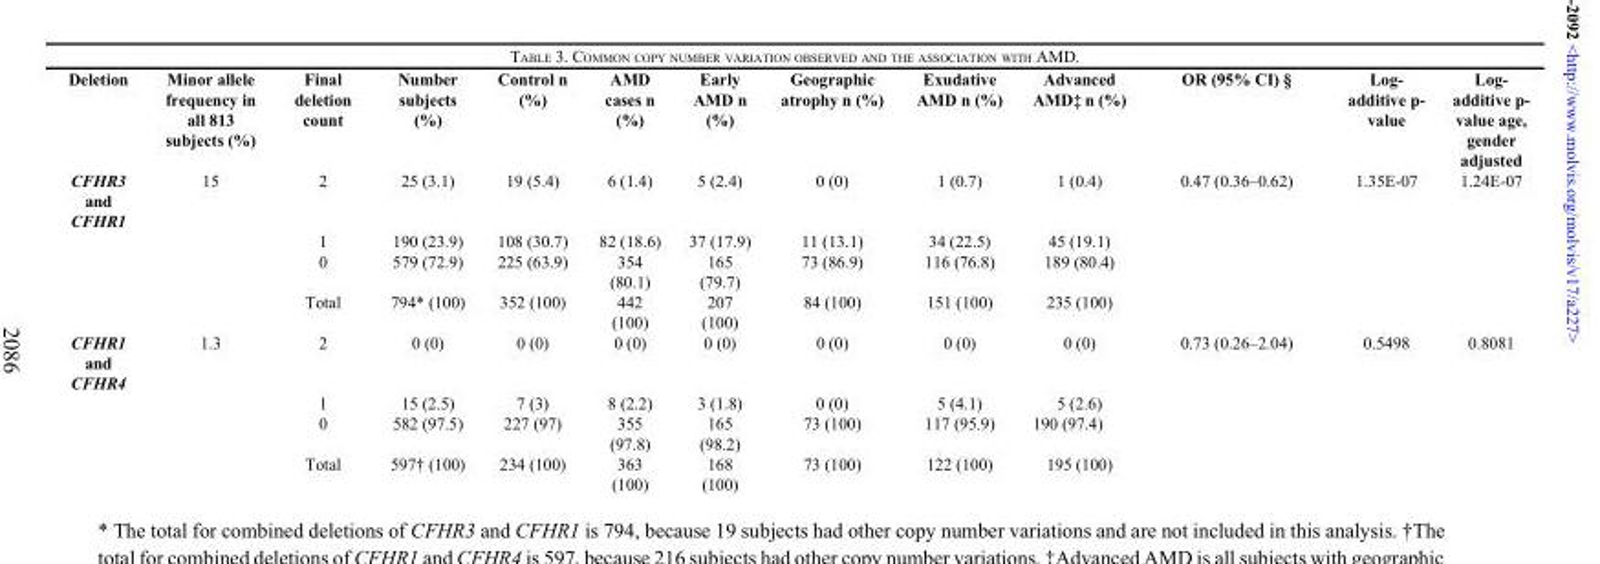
<table><thead><tr><td>Deletion</td><td>Minor allele frequency in all 813 subjects (%)</td><td>Final deletion count</td><td>Number subjects (%)</td><td>Control n (%)</td><td>AMD cases n (%)</td><td>Early AMD n (%)</td><td>Geographic atrophy n (%)</td><td>Exudative AMD n (%)</td><td>Advanced AMD‡ n (%)</td><td>OR (95% CI) §</td><td>Log- additive p- value</td><td>Log- additive p- value age, gender adjusted</td></tr></thead><tbody><tr><td rowspan="4">CFHR3 and CFHR1</td><td>15</td><td>2</td><td>25 (3.1)</td><td>19 (5.4)</td><td>6 (1.4)</td><td>5 (2.4)</td><td>0 (0)</td><td>1 (0.7)</td><td>1 (0.4)</td><td>0.47 (0.36–0.62)</td><td>1.35E-07</td><td>1.24E-07</td></tr><tr><td></td><td>1</td><td>190 (23.9)</td><td>108 (30.7)</td><td>82 (18.6)</td><td>37 (17.9)</td><td>11 (13.1)</td><td>34 (22.5)</td><td>45 (19.1)</td><td></td><td></td><td></td></tr><tr><td></td><td>0</td><td>579 (72.9)</td><td>225 (63.9)</td><td>354 (80.1)</td><td>165 (79.7)</td><td>73 (86.9)</td><td>116 (76.8)</td><td>189 (80.4)</td><td></td><td></td><td></td></tr><tr><td></td><td>Total</td><td>794* (100)</td><td>352 (100)</td><td>442 (100)</td><td>207 (100)</td><td>84 (100)</td><td>151 (100)</td><td>235 (100)</td><td></td><td></td><td></td></tr><tr><td rowspan="4">CFHR1 and CFHR4</td><td>1.3</td><td>2</td><td>0 (0)</td><td>0 (0)</td><td>0 (0)</td><td>0 (0)</td><td>0 (0)</td><td>0 (0)</td><td>0 (0)</td><td>0.73 (0.26–2.04)</td><td>0.5498</td><td>0.8081</td></tr><tr><td></td><td>1</td><td>15 (2.5)</td><td>7 (3)</td><td>8 (2.2)</td><td>3 (1.8)</td><td>0 (0)</td><td>5 (4.1)</td><td>5 (2.6)</td><td></td><td></td><td></td></tr><tr><td></td><td>0</td><td>582 (97.5)</td><td>227 (97)</td><td>355 (97.8)</td><td>165 (98.2)</td><td>73 (100)</td><td>117 (95.9)</td><td>190 (97.4)</td><td></td><td></td><td></td></tr><tr><td></td><td>Total</td><td>597† (100)</td><td>234 (100)</td><td>363 (100)</td><td>168 (100)</td><td>73 (100)</td><td>122 (100)</td><td>195 (100)</td><td></td><td></td><td></td></tr></tbody></table>